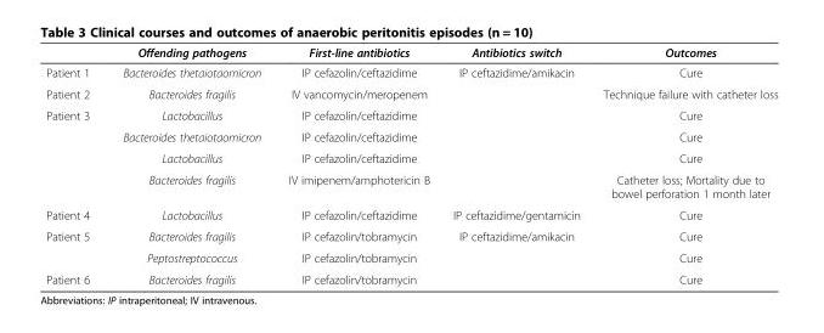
<table><thead><tr><td></td><td>Offending pathogens</td><td>First-line antibiotics</td><td>Antibiotics switch</td><td>Outcomes</td></tr></thead><tbody><tr><td>Patient 1</td><td>Bacteroides thetaiotaomicron</td><td>IP cefazolin/ceftazidime</td><td>IP ceftazidime/amikacin</td><td>Cure</td></tr><tr><td>Patient 2</td><td>Bacteroides fragilis</td><td>IV vancomycin/meropenem</td><td></td><td>Technique failure with catheter loss</td></tr><tr><td rowspan="4">Patient 3</td><td>Lactobacillus</td><td>IP cefazolin/ceftazidime</td><td></td><td>Cure</td></tr><tr><td>Bacteroides thetaiotaomicron</td><td>IP cefazolin/ceftazidime</td><td></td><td>Cure</td></tr><tr><td>Lactobacillus</td><td>IP cefazolin/ceftazidime</td><td></td><td>Cure</td></tr><tr><td>Bacteroides fragilis</td><td>IV imipenem/amphotericin B</td><td></td><td>Catheter loss; Mortality due to bowel perforation 1 month later</td></tr><tr><td>Patient 4</td><td>Lactobacillus</td><td>IP cefazolin/ceftazidime</td><td>IP ceftazidime/gentamicin</td><td>Cure</td></tr><tr><td rowspan="2">Patient 5</td><td>Bacteroides fragilis</td><td>IP cefazolin/tobramycin</td><td>IP ceftazidime/amikacin</td><td>Cure</td></tr><tr><td>Peptostreptococcus</td><td>IP cefazolin/tobramycin</td><td></td><td>Cure</td></tr><tr><td>Patient 6</td><td>Bacteroides fragilis</td><td>IP cefazolin/tobramycin</td><td></td><td>Cure</td></tr></tbody></table>